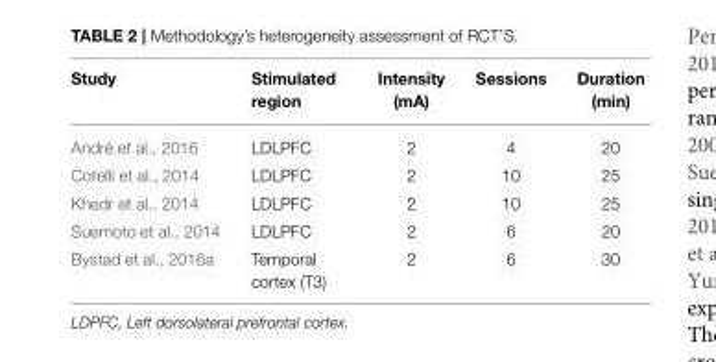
<table><thead><tr><td>Study</td><td>Stimulated region</td><td>Intensity (mA)</td><td>Sessions</td><td>Duration (min)</td></tr></thead><tbody><tr><td>André et al., 2016</td><td>LDLPFC</td><td>2</td><td>4</td><td>20</td></tr><tr><td>Cotelli et al., 2014</td><td>LDLPFC</td><td>2</td><td>10</td><td>25</td></tr><tr><td>Khedr et al., 2014</td><td>LDLPFC</td><td>2</td><td>10</td><td>25</td></tr><tr><td>Suemoto et al., 2014</td><td>LDLPFC</td><td>2</td><td>6</td><td>20</td></tr><tr><td>Bystad et al., 2016a</td><td>Temporal cortex (T3)</td><td>2</td><td>6</td><td>30</td></tr></tbody></table>